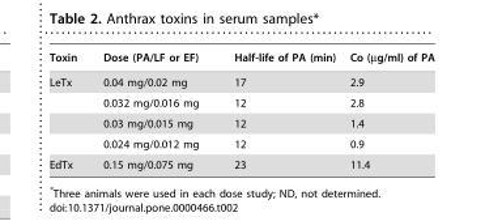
<table><thead><tr><td>Toxin</td><td>Dose (PA/LF or EF)</td><td>Half-life of PA (min)</td><td>Co (µg/ml) of PA</td></tr></thead><tbody><tr><td rowspan="4">LeTx</td><td>0.04 mg/0.02 mg</td><td>17</td><td>2.9</td></tr><tr><td>0.032 mg/0.016 mg</td><td>12</td><td>2.8</td></tr><tr><td>0.03 mg/0.015 mg</td><td>12</td><td>1.4</td></tr><tr><td>0.024 mg/0.012 mg</td><td>12</td><td>0.9</td></tr><tr><td>EdTx</td><td>0.15 mg/0.075 mg</td><td>23</td><td>11.4</td></tr></tbody></table>